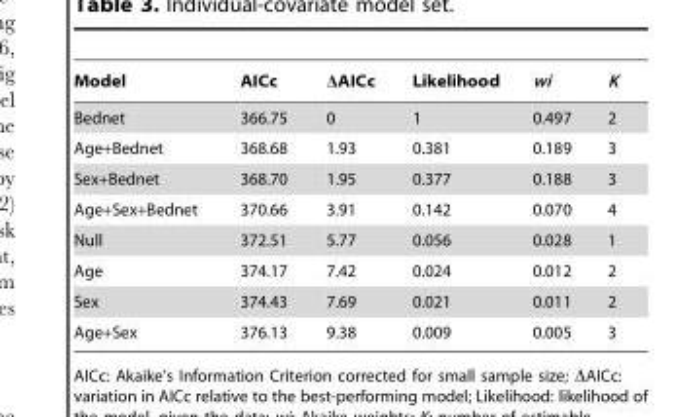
<table><thead><tr><td>Model</td><td>AICc</td><td>ΔAICc</td><td>Likelihood</td><td>wi</td><td>K</td></tr></thead><tbody><tr><td>Bednet</td><td>366.75</td><td>0</td><td>1</td><td>0.497</td><td>2</td></tr><tr><td>Age+Bednet</td><td>368.68</td><td>1.93</td><td>0.381</td><td>0.189</td><td>3</td></tr><tr><td>Sex+Bednet</td><td>368.70</td><td>1.95</td><td>0.377</td><td>0.188</td><td>3</td></tr><tr><td>Age+Sex+Bednet</td><td>370.66</td><td>3.91</td><td>0.142</td><td>0.070</td><td>4</td></tr><tr><td>Null</td><td>372.51</td><td>5.77</td><td>0.056</td><td>0.028</td><td>1</td></tr><tr><td>Age</td><td>374.17</td><td>7.42</td><td>0.024</td><td>0.012</td><td>2</td></tr><tr><td>Sex</td><td>374.43</td><td>7.69</td><td>0.021</td><td>0.011</td><td>2</td></tr><tr><td>Age+Sex</td><td>376.13</td><td>9.38</td><td>0.009</td><td>0.005</td><td>3</td></tr></tbody></table>